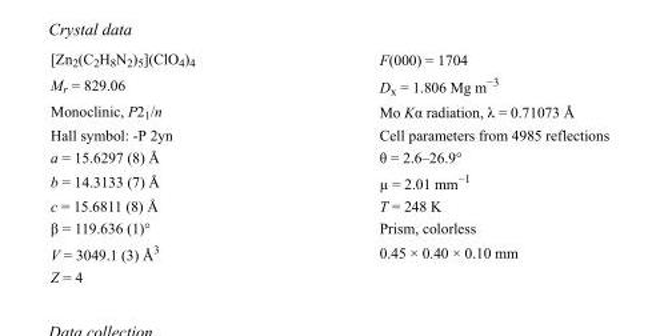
<table><tbody><tr><td>[Zn<sub>2</sub>(C<sub>2</sub>H<sub>8</sub>N<sub>2</sub>)<sub>5</sub>](ClO<sub>4</sub>)<sub>4</sub></td><td>F(000) = 1704</td></tr><tr><td>M<sub>r</sub> = 829.06</td><td>D<sub>x</sub> = 1.806 Mg m<sup>−3</sup></td></tr><tr><td>Monoclinic, P2<sub>1</sub>/n</td><td>Mo Kα radiation, λ = 0.71073 Å</td></tr><tr><td>Hall symbol: -P 2yn</td><td>Cell parameters from 4985 reflections</td></tr><tr><td>a = 15.6297 (8) Å</td><td>θ = 2.6–26.9°</td></tr><tr><td>b = 14.3133 (7) Å</td><td>µ = 2.01 mm<sup>−1</sup></td></tr><tr><td>c = 15.6811 (8) Å</td><td>T = 248 K</td></tr><tr><td>β = 119.636 (1)°</td><td>Prism, colorless</td></tr><tr><td>V = 3049.1 (3) Å<sup>3</sup></td><td>0.45 × 0.40 × 0.10 mm</td></tr><tr><td>Z = 4</td><td></td></tr></tbody></table>